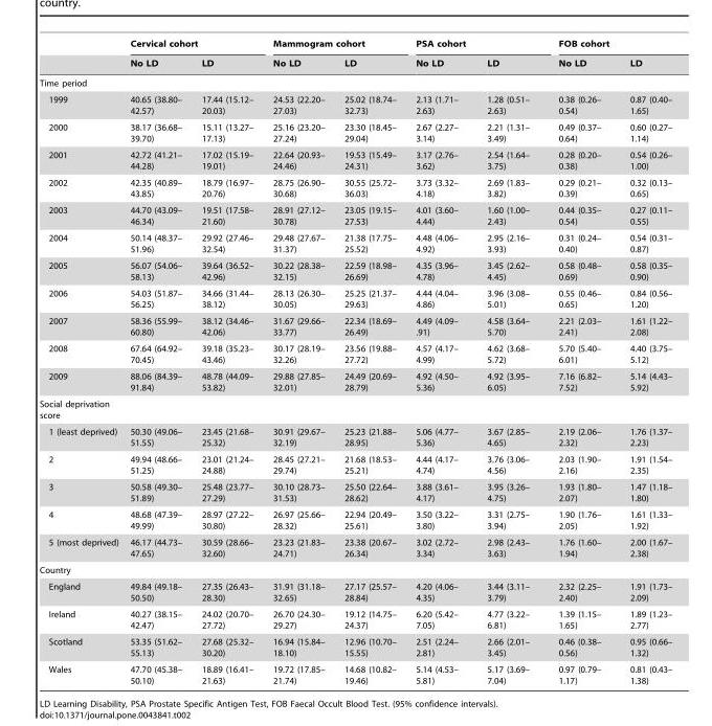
<table><thead><tr><td rowspan="2"></td><td colspan="2">Cervical cohort</td><td colspan="2">Mammogram cohort</td><td colspan="2">PSA cohort</td><td colspan="2">FOB cohort</td></tr><tr><td>No LD</td><td>LD</td><td>No LD</td><td>LD</td><td>No LD</td><td>LD</td><td>No LD</td><td>LD</td></tr></thead><tbody><tr><td colspan="9">Time period</td></tr><tr><td>1999</td><td>40.65 (38.80– 42.57)</td><td>17.44 (15.12– 20.03)</td><td>24.53 (22.20– 27.03)</td><td>25.02 (18.74– 32.73)</td><td>2.13 (1.71– 2.63)</td><td>1.28 (0.51– 2.63)</td><td>0.38 (0.26– 0.54)</td><td>0.87 (0.40– 1.65)</td></tr><tr><td>2000</td><td>38.17 (36.68– 39.70)</td><td>15.11 (13.27– 17.13)</td><td>25.16 (23.20– 27.24)</td><td>23.30 (18.45– 29.04)</td><td>2.67 (2.27– 3.14)</td><td>2.21 (1.31– 3.49)</td><td>0.49 (0.37– 0.64)</td><td>0.60 (0.27– 1.14)</td></tr><tr><td>2001</td><td>42.72 (41.21– 44.28)</td><td>17.02 (15.19– 19.01)</td><td>22.64 (20.93– 24.46)</td><td>19.53 (15.49– 24.31)</td><td>3.17 (2.76– 3.62)</td><td>2.54 (1.64– 3.75)</td><td>0.28 (0.20– 0.38)</td><td>0.54 (0.26– 1.00)</td></tr><tr><td>2002</td><td>42.35 (40.89– 43.85)</td><td>18.79 (16.97– 20.76)</td><td>28.75 (26.90– 30.68)</td><td>30.55 (25.72– 36.03)</td><td>3.73 (3.32– 4.18)</td><td>2.69 (1.83– 3.82)</td><td>0.29 (0.21– 0.39)</td><td>0.32 (0.13– 0.65)</td></tr><tr><td>2003</td><td>44.70 (43.09– 46.34)</td><td>19.51 (17.58– 21.60)</td><td>28.91 (27.12– 30.78)</td><td>23.05 (19.15– 27.53)</td><td>4.01 (3.60– 4.44)</td><td>1.60 (1.00– 2.43)</td><td>0.44 (0.35– 0.54)</td><td>0.27 (0.11– 0.55)</td></tr><tr><td>2004</td><td>50.14 (48.37– 51.96)</td><td>29.92 (27.46– 32.54)</td><td>29.48 (27.67– 31.37)</td><td>21.38 (17.75– 25.52)</td><td>4.48 (4.06– 4.92)</td><td>2.95 (2.16– 3.93)</td><td>0.31 (0.24– 0.40)</td><td>0.54 (0.31– 0.87)</td></tr><tr><td>2005</td><td>56.07 (54.06– 58.13)</td><td>39.64 (36.52– 42.96)</td><td>30.22 (28.38– 32.15)</td><td>22.59 (18.98– 26.69)</td><td>4.35 (3.96– 4.78)</td><td>3.45 (2.62– 4.45)</td><td>0.58 (0.48– 0.69)</td><td>0.58 (0.35– 0.90)</td></tr><tr><td>2006</td><td>54.03 (51.87– 56.25)</td><td>34.66 (31.44– 38.12)</td><td>28.13 (26.30– 30.05)</td><td>25.25 (21.37– 29.63)</td><td>4.44 (4.04– 4.86)</td><td>3.96 (3.08– 5.01)</td><td>0.55 (0.46– 0.65)</td><td>0.84 (0.56– 1.20)</td></tr><tr><td>2007</td><td>58.36 (55.99– 60.80)</td><td>38.12 (34.46– 42.06)</td><td>31.67 (29.66– 33.77)</td><td>22.34 (18.69– 26.49)</td><td>4.49 (4.09– .91)</td><td>4.58 (3.64– 5.70)</td><td>2.21 (2.03– 2.41)</td><td>1.61 (1.22– 2.08)</td></tr><tr><td>2008</td><td>67.64 (64.92– 70.45)</td><td>39.18 (35.23– 43.46)</td><td>30.17 (28.19– 32.26)</td><td>23.56 (19.88– 27.72)</td><td>4.57 (4.17– 4.99)</td><td>4.62 (3.68– 5.72)</td><td>5.70 (5.40– 6.01)</td><td>4.40 (3.75– 5.12)</td></tr><tr><td>2009</td><td>88.06 (84.39– 91.84)</td><td>48.78 (44.09– 53.82)</td><td>29.88 (27.85– 32.01)</td><td>24.49 (20.69– 28.79)</td><td>4.92 (4.50– 5.36)</td><td>4.92 (3.95– 6.05)</td><td>7.16 (6.82– 7.52)</td><td>5.14 (4.43– 5.92)</td></tr><tr><td colspan="9">Social deprivation score</td></tr><tr><td>1 (least deprived)</td><td>50.30 (49.06– 51.55)</td><td>23.45 (21.68– 25.32)</td><td>30.91 (29.67– 32.19)</td><td>25.23 (21.88– 28.95)</td><td>5.06 (4.77– 5.36)</td><td>3.67 (2.85– 4.65)</td><td>2.19 (2.06– 2.32)</td><td>1.76 (1.37– 2.23)</td></tr><tr><td>2</td><td>49.94 (48.66– 51.25)</td><td>23.01 (21.24– 24.88)</td><td>28.45 (27.21– 29.74)</td><td>21.68 (18.53– 25.21)</td><td>4.44 (4.17– 4.74)</td><td>3.76 (3.06– 4.56)</td><td>2.03 (1.90– 2.16)</td><td>1.91 (1.54– 2.35)</td></tr><tr><td>3</td><td>50.58 (49.30– 51.89)</td><td>25.48 (23.77– 27.29)</td><td>30.10 (28.73– 31.53)</td><td>25.50 (22.64– 28.62)</td><td>3.88 (3.61– 4.17)</td><td>3.95 (3.26– 4.75)</td><td>1.93 (1.80– 2.07)</td><td>1.47 (1.18– 1.80)</td></tr><tr><td>4</td><td>48.68 (47.39– 49.99)</td><td>28.97 (27.22– 30.80)</td><td>26.97 (25.66– 28.32)</td><td>22.94 (20.49– 25.61)</td><td>3.50 (3.22– 3.80)</td><td>3.31 (2.75– 3.94)</td><td>1.90 (1.76– 2.05)</td><td>1.61 (1.33– 1.92)</td></tr><tr><td>5 (most deprived)</td><td>46.17 (44.73– 47.65)</td><td>30.59 (28.66– 32.60)</td><td>23.23 (21.83– 24.71)</td><td>23.38 (20.67– 26.34)</td><td>3.02 (2.72– 3.34)</td><td>2.98 (2.43– 3.63)</td><td>1.76 (1.60– 1.94)</td><td>2.00 (1.67– 2.38)</td></tr><tr><td colspan="9">Country</td></tr><tr><td>England</td><td>49.84 (49.18– 50.50)</td><td>27.35 (26.43– 28.30)</td><td>31.91 (31.18– 32.65)</td><td>27.17 (25.57– 28.84)</td><td>4.20 (4.06– 4.35)</td><td>3.44 (3.11– 3.79)</td><td>2.32 (2.25– 2.40)</td><td>1.91 (1.73– 2.09)</td></tr><tr><td>Ireland</td><td>40.27 (38.15– 42.47)</td><td>24.02 (20.70– 27.72)</td><td>26.70 (24.30– 29.27)</td><td>19.12 (14.75– 24.37)</td><td>6.20 (5.42– 7.05)</td><td>4.77 (3.22– 6.81)</td><td>1.39 (1.15– 1.65)</td><td>1.89 (1.23– 2.77)</td></tr><tr><td>Scotland</td><td>53.35 (51.62– 55.13)</td><td>27.68 (25.32– 30.20)</td><td>16.94 (15.84– 18.10)</td><td>12.96 (10.70– 15.55)</td><td>2.51 (2.24– 2.81)</td><td>2.66 (2.01– 3.45)</td><td>0.46 (0.38– 0.56)</td><td>0.95 (0.66– 1.32)</td></tr><tr><td>Wales</td><td>47.70 (45.38– 50.10)</td><td>18.89 (16.41– 21.63)</td><td>19.72 (17.85– 21.74)</td><td>14.68 (10.82– 19.46)</td><td>5.14 (4.53– 5.81)</td><td>5.17 (3.69– 7.04)</td><td>0.97 (0.79– 1.17)</td><td>0.81 (0.43– 1.38)</td></tr></tbody></table>